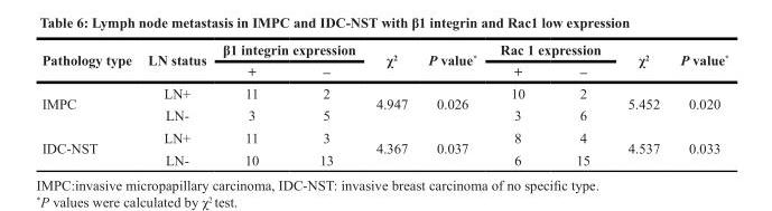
<table><thead><tr><td rowspan="2">Pathology type</td><td rowspan="2">LN status</td><td colspan="2">β1 integrin expression</td><td rowspan="2">χ<sup>2</sup></td><td rowspan="2">P value*</td><td colspan="2">Rac 1 expression</td><td rowspan="2">χ<sup>2</sup></td><td rowspan="2">P value*</td></tr><tr><td>+</td><td>–</td><td>+</td><td>–</td></tr></thead><tbody><tr><td rowspan="2">IMPC</td><td>LN+</td><td>11</td><td>2</td><td rowspan="2">4.947</td><td rowspan="2">0.026</td><td>10</td><td>2</td><td rowspan="2">5.452</td><td rowspan="2">0.020</td></tr><tr><td>LN-</td><td>3</td><td>5</td><td>3</td><td>6</td></tr><tr><td rowspan="2">IDC-NST</td><td>LN+</td><td>11</td><td>3</td><td rowspan="2">4.367</td><td rowspan="2">0.037</td><td>8</td><td>4</td><td rowspan="2">4.537</td><td rowspan="2">0.033</td></tr><tr><td>LN-</td><td>10</td><td>13</td><td>6</td><td>15</td></tr></tbody></table>